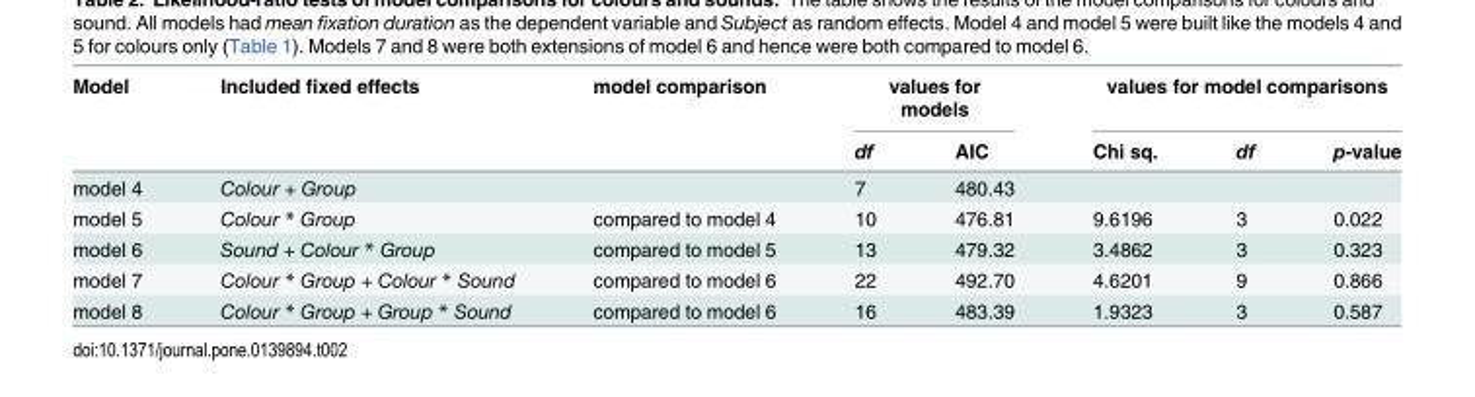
<table><thead><tr><td rowspan="2">Model</td><td rowspan="2">Included fixed effects</td><td rowspan="2">model comparison</td><td colspan="2">values for models</td><td colspan="3">values for model comparisons</td></tr><tr><td>df</td><td>AIC</td><td>Chi sq.</td><td>df</td><td>p-value</td></tr></thead><tbody><tr><td>model 4</td><td>Colour + Group</td><td></td><td>7</td><td>480.43</td><td></td><td></td><td></td></tr><tr><td>model 5</td><td>Colour * Group</td><td>compared to model 4</td><td>10</td><td>476.81</td><td>9.6196</td><td>3</td><td>0.022</td></tr><tr><td>model 6</td><td>Sound + Colour * Group</td><td>compared to model 5</td><td>13</td><td>479.32</td><td>3.4862</td><td>3</td><td>0.323</td></tr><tr><td>model 7</td><td>Colour * Group + Colour * Sound</td><td>compared to model 6</td><td>22</td><td>492.70</td><td>4.6201</td><td>9</td><td>0.866</td></tr><tr><td>model 8</td><td>Colour * Group + Group * Sound</td><td>compared to model 6</td><td>16</td><td>483.39</td><td>1.9323</td><td>3</td><td>0.587</td></tr></tbody></table>